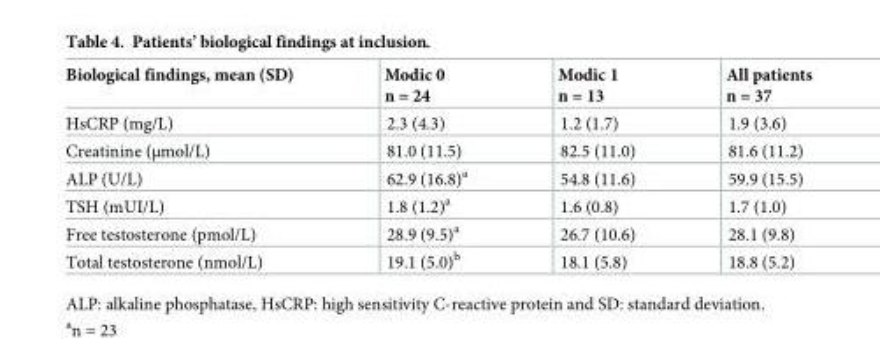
<table><thead><tr><td>Biological findings, mean (SD)</td><td>Modic 0 n = 24</td><td>Modic 1 n = 13</td><td>All patients n = 37</td></tr></thead><tbody><tr><td>HsCRP (mg/L)</td><td>2.3 (4.3)</td><td>1.2 (1.7)</td><td>1.9 (3.6)</td></tr><tr><td>Creatinine (μmol/L)</td><td>81.0 (11.5)</td><td>82.5 (11.0)</td><td>81.6 (11.2)</td></tr><tr><td>ALP (U/L)</td><td>62.9 (16.8)<sup>a</sup></td><td>54.8 (11.6)</td><td>59.9 (15.5)</td></tr><tr><td>TSH (mUI/L)</td><td>1.8 (1.2)<sup>a</sup></td><td>1.6 (0.8)</td><td>1.7 (1.0)</td></tr><tr><td>Free testosterone (pmol/L)</td><td>28.9 (9.5)<sup>a</sup></td><td>26.7 (10.6)</td><td>28.1 (9.8)</td></tr><tr><td>Total testosterone (nmol/L)</td><td>19.1 (5.0)<sup>b</sup></td><td>18.1 (5.8)</td><td>18.8 (5.2)</td></tr></tbody></table>